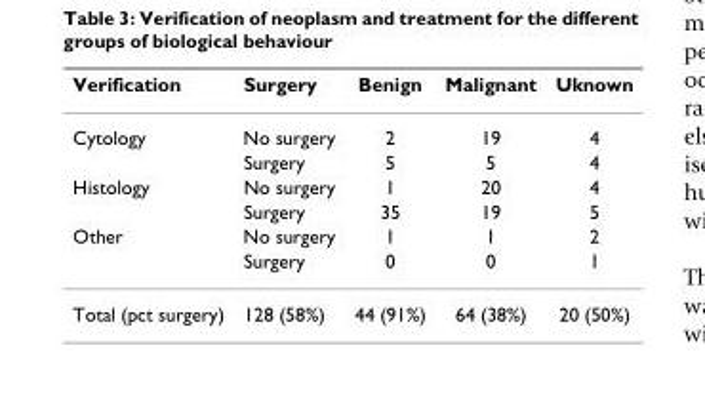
<table><thead><tr><td>Verification</td><td>Surgery</td><td>Benign</td><td>Malignant</td><td>Uknown</td></tr></thead><tbody><tr><td rowspan="2">Cytology</td><td>No surgery</td><td>2</td><td>19</td><td>4</td></tr><tr><td>Surgery</td><td>5</td><td>5</td><td>4</td></tr><tr><td rowspan="2">Histology</td><td>No surgery</td><td>1</td><td>20</td><td>4</td></tr><tr><td>Surgery</td><td>35</td><td>19</td><td>5</td></tr><tr><td rowspan="2">Other</td><td>No surgery</td><td>1</td><td>1</td><td>2</td></tr><tr><td>Surgery</td><td>0</td><td>0</td><td>1</td></tr><tr><td>Total (pct surgery)</td><td>128 (58%)</td><td>44 (91%)</td><td>64 (38%)</td><td>20 (50%)</td></tr></tbody></table>